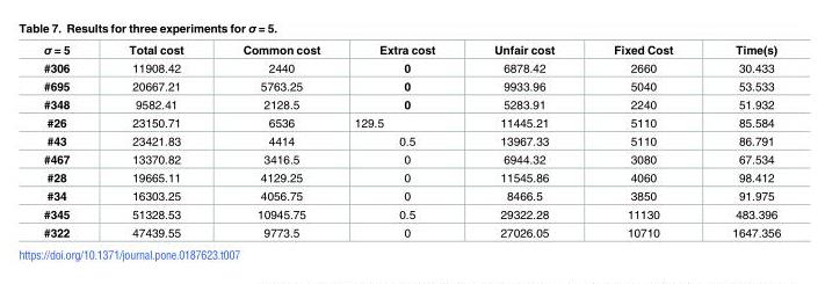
<table><thead><tr><td>σ = 5</td><td>Total cost</td><td>Common cost</td><td>Extra cost</td><td>Unfair cost</td><td>Fixed Cost</td><td>Time(s)</td></tr></thead><tbody><tr><td>#306</td><td>11908.42</td><td>2440</td><td>0</td><td>6878.42</td><td>2660</td><td>30.433</td></tr><tr><td>#695</td><td>20667.21</td><td>5763.25</td><td>0</td><td>9933.96</td><td>5040</td><td>53.533</td></tr><tr><td>#348</td><td>9582.41</td><td>2128.5</td><td>0</td><td>5283.91</td><td>2240</td><td>51.932</td></tr><tr><td>#26</td><td>23150.71</td><td>6536</td><td>129.5</td><td>11445.21</td><td>5110</td><td>85.584</td></tr><tr><td>#43</td><td>23421.83</td><td>4414</td><td>0.5</td><td>13967.33</td><td>5110</td><td>86.791</td></tr><tr><td>#467</td><td>13370.82</td><td>3416.5</td><td>0</td><td>6944.32</td><td>3080</td><td>67.534</td></tr><tr><td>#28</td><td>19665.11</td><td>4129.25</td><td>0</td><td>11545.86</td><td>4060</td><td>98.412</td></tr><tr><td>#34</td><td>16303.25</td><td>4056.75</td><td>0</td><td>8466.5</td><td>3850</td><td>91.975</td></tr><tr><td>#345</td><td>51328.53</td><td>10945.75</td><td>0.5</td><td>29322.28</td><td>11130</td><td>483.396</td></tr><tr><td>#322</td><td>47439.55</td><td>9773.5</td><td>0</td><td>27026.05</td><td>10710</td><td>1647.356</td></tr></tbody></table>